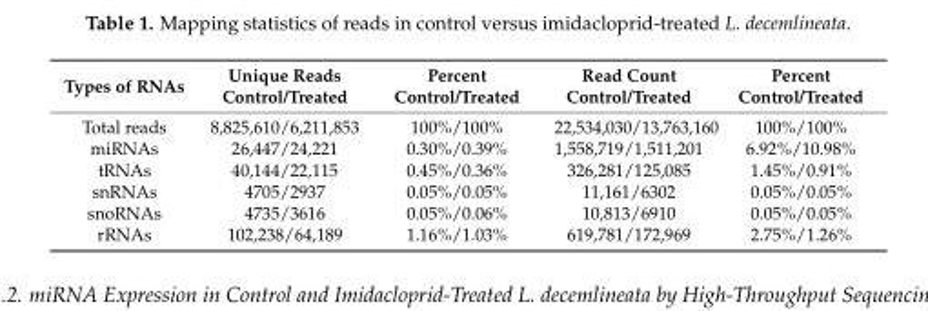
<table><thead><tr><td>Types of RNAs</td><td>Unique Reads Control/Treated</td><td>Percent Control/Treated</td><td>Read Count Control/Treated</td><td>Percent Control/Treated</td></tr></thead><tbody><tr><td>Total reads</td><td>8,825,610/6,211,853</td><td>100%/100%</td><td>22,534,030/13,763,160</td><td>100%/100%</td></tr><tr><td>miRNAs</td><td>26,447/24,221</td><td>0.30%/0.39%</td><td>1,558,719/1,511,201</td><td>6.92%/10.98%</td></tr><tr><td>tRNAs</td><td>40,144/22,115</td><td>0.45%/0.36%</td><td>326,281/125,085</td><td>1.45%/0.91%</td></tr><tr><td>snRNAs</td><td>4705/2937</td><td>0.05%/0.05%</td><td>11,161/6302</td><td>0.05%/0.05%</td></tr><tr><td>snoRNAs</td><td>4735/3616</td><td>0.05%/0.06%</td><td>10,813/6910</td><td>0.05%/0.05%</td></tr><tr><td>rRNAs</td><td>102,238/64,189</td><td>1.16%/1.03%</td><td>619,781/172,969</td><td>2.75%/1.26%</td></tr></tbody></table>